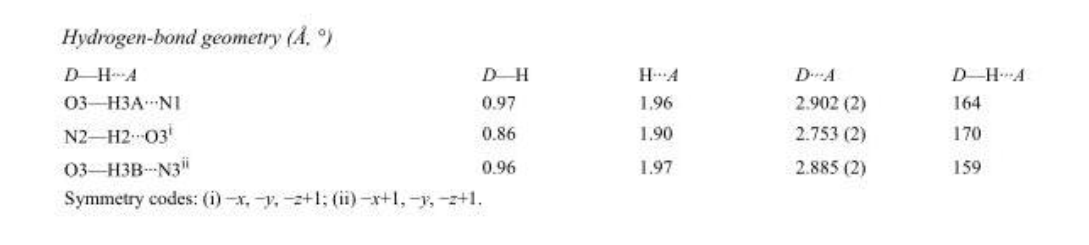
<table><tbody><tr><td>D—H···A</td><td>D—H</td><td>H···A</td><td>D···A</td><td>D—H···A</td></tr><tr><td>O3—H3A···N1</td><td>0.97</td><td>1.96</td><td>2.902 (2)</td><td>164</td></tr><tr><td>N2—H2···O3<sup>i</sup></td><td>0.86</td><td>1.90</td><td>2.753 (2)</td><td>170</td></tr><tr><td>O3—H3B···N3<sup>ii</sup></td><td>0.96</td><td>1.97</td><td>2.885 (2)</td><td>159</td></tr></tbody></table>